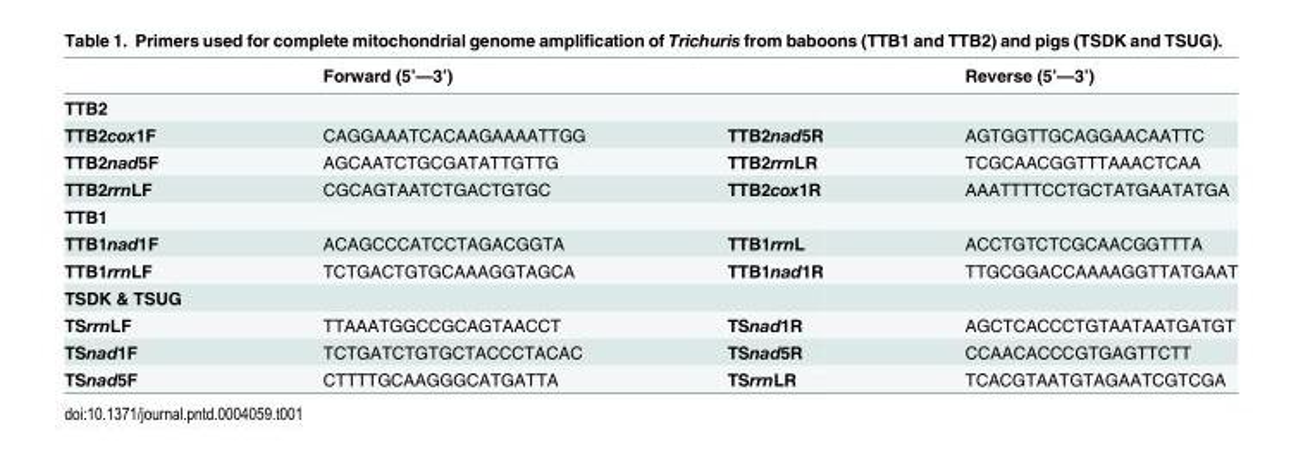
<table><thead><tr><td></td><td>Forward (5’—3’)</td><td></td><td>Reverse (5’—3’)</td></tr></thead><tbody><tr><td colspan="4">TTB2</td></tr><tr><td>TTB2cox1F</td><td>CAGGAAATCACAAGAAAATTGG</td><td>TTB2nad5R</td><td>AGTGGTTGCAGGAACAATTC</td></tr><tr><td>TTB2nad5F</td><td>AGCAATCTGCGATATTGTTG</td><td>TTB2rrnLR</td><td>TCGCAACGGTTTAAACTCAA</td></tr><tr><td>TTB2rrnLF</td><td>CGCAGTAATCTGACTGTGC</td><td>TTB2cox1R</td><td>AAATTTTCCTGCTATGAATATGA</td></tr><tr><td colspan="4">TTB1</td></tr><tr><td>TTB1nad1F</td><td>ACAGCCCATCCTAGACGGTA</td><td>TTB1rrnL</td><td>ACCTGTCTCGCAACGGTTTA</td></tr><tr><td>TTB1rrnLF</td><td>TCTGACTGTGCAAAGGTAGCA</td><td>TTB1nad1R</td><td>TTGCGGACCAAAAGGTTATGAAT</td></tr><tr><td colspan="4">TSDK &amp; TSUG</td></tr><tr><td>TSrrnLF</td><td>TTAAATGGCCGCAGTAACCT</td><td>TSnad1R</td><td>AGCTCACCCTGTAATAATGATGT</td></tr><tr><td>TSnad1F</td><td>TCTGATCTGTGCTACCCTACAC</td><td>TSnad5R</td><td>CCAACACCCGTGAGTTCTT</td></tr><tr><td>TSnad5F</td><td>CTTTTGCAAGGGCATGATTA</td><td>TSrrnLR</td><td>TCACGTAATGTAGAATCGTCGA</td></tr></tbody></table>